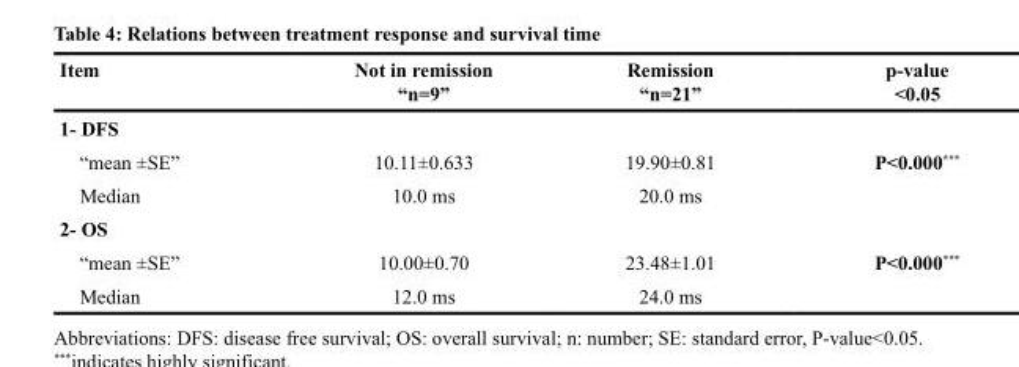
<table><thead><tr><td>Item</td><td>Not in remission “n=9”</td><td>Remission “n=21”</td><td>p-value &lt;0.05</td></tr></thead><tbody><tr><td colspan="4">1- DFS</td></tr><tr><td>“mean ±SE”</td><td>10.11±0.633</td><td>19.90±0.81</td><td>P&lt;0.000***</td></tr><tr><td>Median</td><td>10.0 ms</td><td>20.0 ms</td><td></td></tr><tr><td colspan="4">2- OS</td></tr><tr><td>“mean ±SE”</td><td>10.00±0.70</td><td>23.48±1.01</td><td>P&lt;0.000***</td></tr><tr><td>Median</td><td>12.0 ms</td><td>24.0 ms</td><td></td></tr></tbody></table>